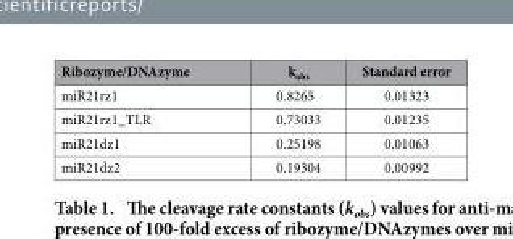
<table><thead><tr><td>Ribozyme/DNAzyme</td><td>k<sub>obs</sub></td><td>Standard error</td></tr></thead><tbody><tr><td>miR21rz1</td><td>0.8265</td><td>0.01323</td></tr><tr><td>miR21rz1_TLR</td><td>0.73033</td><td>0.01235</td></tr><tr><td>miR21dz1</td><td>0.25198</td><td>0.01063</td></tr><tr><td>miR21dz2</td><td>0.19304</td><td>0.00992</td></tr></tbody></table>